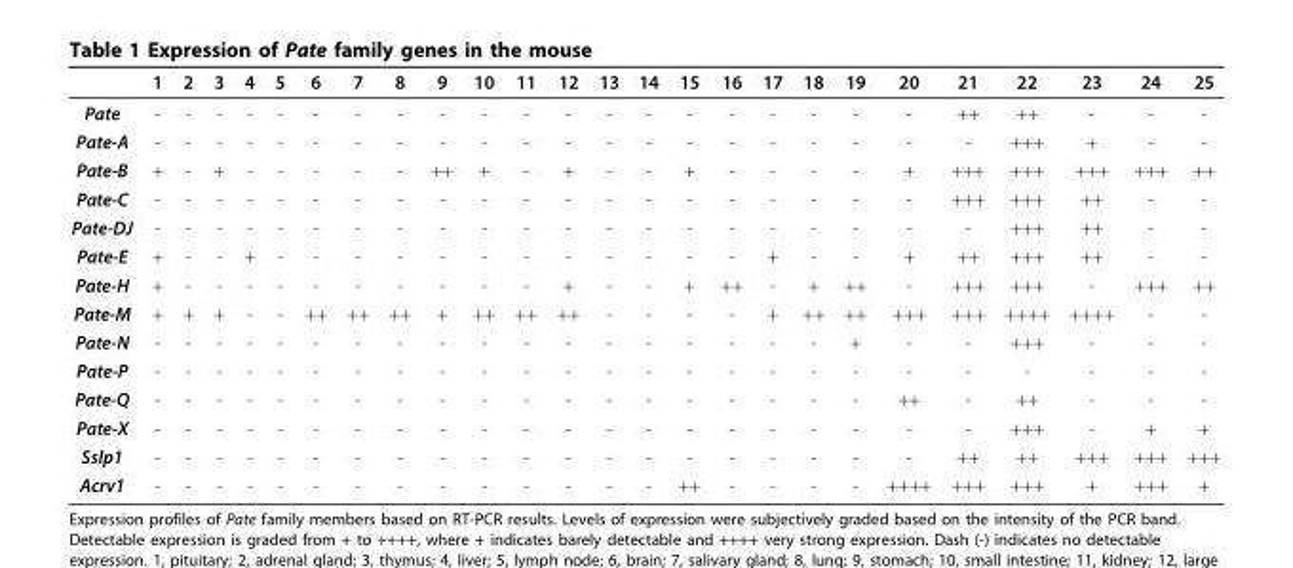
<table><thead><tr><td></td><td>1</td><td>2</td><td>3</td><td>4</td><td>5</td><td>6</td><td>7</td><td>8</td><td>9</td><td>10</td><td>11</td><td>12</td><td>13</td><td>14</td><td>15</td><td>16</td><td>17</td><td>18</td><td>19</td><td>20</td><td>21</td><td>22</td><td>23</td><td>24</td><td>25</td></tr></thead><tbody><tr><td>Pate</td><td>-</td><td>-</td><td>-</td><td>-</td><td>-</td><td>-</td><td>-</td><td>-</td><td>-</td><td>-</td><td>-</td><td>-</td><td>-</td><td>-</td><td>-</td><td>-</td><td>-</td><td>-</td><td>-</td><td>-</td><td>++</td><td>++</td><td>-</td><td>-</td><td>-</td></tr><tr><td>Pate-A</td><td>-</td><td>-</td><td>-</td><td>-</td><td>-</td><td>-</td><td>-</td><td>-</td><td>-</td><td>-</td><td>-</td><td>-</td><td>-</td><td>-</td><td>-</td><td>-</td><td>-</td><td>-</td><td>-</td><td>-</td><td>-</td><td>+++</td><td>+</td><td>-</td><td>-</td></tr><tr><td>Pate-B</td><td>+</td><td>-</td><td>+</td><td>-</td><td>-</td><td>-</td><td>-</td><td>-</td><td>++</td><td>+</td><td>-</td><td>+</td><td>-</td><td>-</td><td>+</td><td>-</td><td>-</td><td>-</td><td>-</td><td>+</td><td>+++</td><td>+++</td><td>+++</td><td>+++</td><td>++</td></tr><tr><td>Pate-C</td><td>-</td><td>-</td><td>-</td><td>-</td><td>-</td><td>-</td><td>-</td><td>-</td><td>-</td><td>-</td><td>-</td><td>-</td><td>-</td><td>-</td><td>-</td><td>-</td><td>-</td><td>-</td><td>-</td><td>-</td><td>+++</td><td>+++</td><td>++</td><td>-</td><td>-</td></tr><tr><td>Pate-DJ</td><td>-</td><td>-</td><td>-</td><td>-</td><td>-</td><td>-</td><td>-</td><td>-</td><td>-</td><td>-</td><td>-</td><td>-</td><td>-</td><td>-</td><td>-</td><td>-</td><td>-</td><td>-</td><td>-</td><td>-</td><td>-</td><td>+++</td><td>++</td><td>-</td><td>-</td></tr><tr><td>Pate-E</td><td>+</td><td>-</td><td>-</td><td>+</td><td>-</td><td>-</td><td>-</td><td>-</td><td>-</td><td>-</td><td>-</td><td>-</td><td>-</td><td>-</td><td>-</td><td>-</td><td>+</td><td>-</td><td>-</td><td>+</td><td>++</td><td>+++</td><td>++</td><td>-</td><td>-</td></tr><tr><td>Pate-H</td><td>+</td><td>-</td><td>-</td><td>-</td><td>-</td><td>-</td><td>-</td><td>-</td><td>-</td><td>-</td><td>-</td><td>+</td><td>-</td><td>-</td><td>+</td><td>++</td><td>-</td><td>+</td><td>++</td><td>-</td><td>+++</td><td>+++</td><td>-</td><td>+++</td><td>++</td></tr><tr><td>Pate-M</td><td>+</td><td>+</td><td>+</td><td>-</td><td>-</td><td>++</td><td>++</td><td>++</td><td>+</td><td>++</td><td>++</td><td>++</td><td>-</td><td>-</td><td>-</td><td>-</td><td>+</td><td>++</td><td>++</td><td>+++</td><td>+++</td><td>++++</td><td>++++</td><td>-</td><td>-</td></tr><tr><td>Pate-N</td><td>-</td><td>-</td><td>-</td><td>-</td><td>-</td><td>-</td><td>-</td><td>-</td><td>-</td><td>-</td><td>-</td><td>-</td><td>-</td><td>-</td><td>-</td><td>-</td><td>-</td><td>-</td><td>+</td><td>-</td><td>-</td><td>+++</td><td>-</td><td>-</td><td>-</td></tr><tr><td>Pate-P</td><td>-</td><td>-</td><td>-</td><td>-</td><td>-</td><td>-</td><td>-</td><td>-</td><td>-</td><td>-</td><td>-</td><td>-</td><td>-</td><td>-</td><td>-</td><td>-</td><td>-</td><td>-</td><td>-</td><td>-</td><td>-</td><td>-</td><td>-</td><td>-</td><td>-</td></tr><tr><td>Pate-Q</td><td>-</td><td>-</td><td>-</td><td>-</td><td>-</td><td>-</td><td>-</td><td>-</td><td>-</td><td>-</td><td>-</td><td>-</td><td>-</td><td>-</td><td>-</td><td>-</td><td>-</td><td>-</td><td>-</td><td>++</td><td>-</td><td>++</td><td>-</td><td>-</td><td>-</td></tr><tr><td>Pate-X</td><td>-</td><td>-</td><td>-</td><td>-</td><td>-</td><td>-</td><td>-</td><td>-</td><td>-</td><td>-</td><td>-</td><td>-</td><td>-</td><td>-</td><td>-</td><td>-</td><td>-</td><td>-</td><td>-</td><td>-</td><td>-</td><td>+++</td><td>-</td><td>+</td><td>+</td></tr><tr><td>Sslp1</td><td>-</td><td>-</td><td>-</td><td>-</td><td>-</td><td>-</td><td>-</td><td>-</td><td>-</td><td>-</td><td>-</td><td>-</td><td>-</td><td>-</td><td>-</td><td>-</td><td>-</td><td>-</td><td>-</td><td>-</td><td>++</td><td>++</td><td>+++</td><td>+++</td><td>+++</td></tr><tr><td>Acrv1</td><td>-</td><td>-</td><td>-</td><td>-</td><td>-</td><td>-</td><td>-</td><td>-</td><td>-</td><td>-</td><td>-</td><td>-</td><td>-</td><td>-</td><td>++</td><td>-</td><td>-</td><td>-</td><td>-</td><td>++++</td><td>+++</td><td>+++</td><td>+</td><td>+++</td><td>+</td></tr></tbody></table>